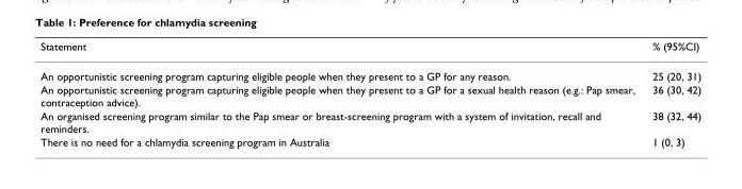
<table><thead><tr><td>Statement</td><td>% (95%CI)</td></tr></thead><tbody><tr><td>An opportunistic screening program capturing eligible people when they present to a GP for any reason.</td><td>25 (20, 31)</td></tr><tr><td>An opportunistic screening program capturing eligible people when they present to a GP for a sexual health reason (e.g.: Pap smear, contraception advice).</td><td>36 (30, 42)</td></tr><tr><td>An organised screening program similar to the Pap smear or breast-screening program with a system of invitation, recall and reminders.</td><td>38 (32, 44)</td></tr><tr><td>There is no need for a chlamydia screening program in Australia</td><td>1 (0, 3)</td></tr></tbody></table>